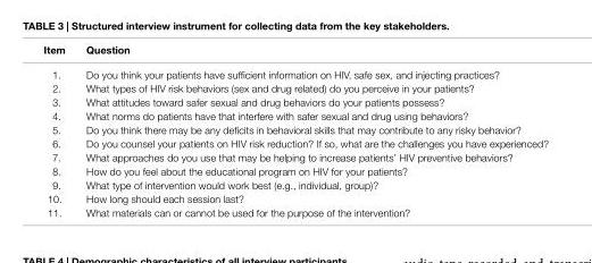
<table><thead><tr><td>item</td><td>Question</td></tr></thead><tbody><tr><td>1.</td><td>Do you think your patients have sufficient information on HIV, safe sex, and injecting practices?</td></tr><tr><td>2.</td><td>What types of HIV risk behaviors (sex and drug related) do you perceive in your patients?</td></tr><tr><td>3.</td><td>What attitudes toward safer sexual and drug behaviors do your patients possess?</td></tr><tr><td>4.</td><td>What norms do patients have that interfere with safer sexual and drug using behaviors?</td></tr><tr><td>5.</td><td>Do you think there may be any deficits in behavioral skills that may contribute to any risky behavior?</td></tr><tr><td>6.</td><td>Do you counsel your patients on HIV risk reduction? If so, what are the challenges you have experienced?</td></tr><tr><td>7.</td><td>What approaches do you use that may be helping to increase patients’ HIV preventive behaviors?</td></tr><tr><td>8.</td><td>How do you feel about the educational program on HIV for your patients?</td></tr><tr><td>9.</td><td>What type of intervention would work best (e.g., individual, group)?</td></tr><tr><td>10.</td><td>How long should each session last?</td></tr><tr><td>11.</td><td>What materials can or cannot be used for the purpose of the intervention?</td></tr></tbody></table>